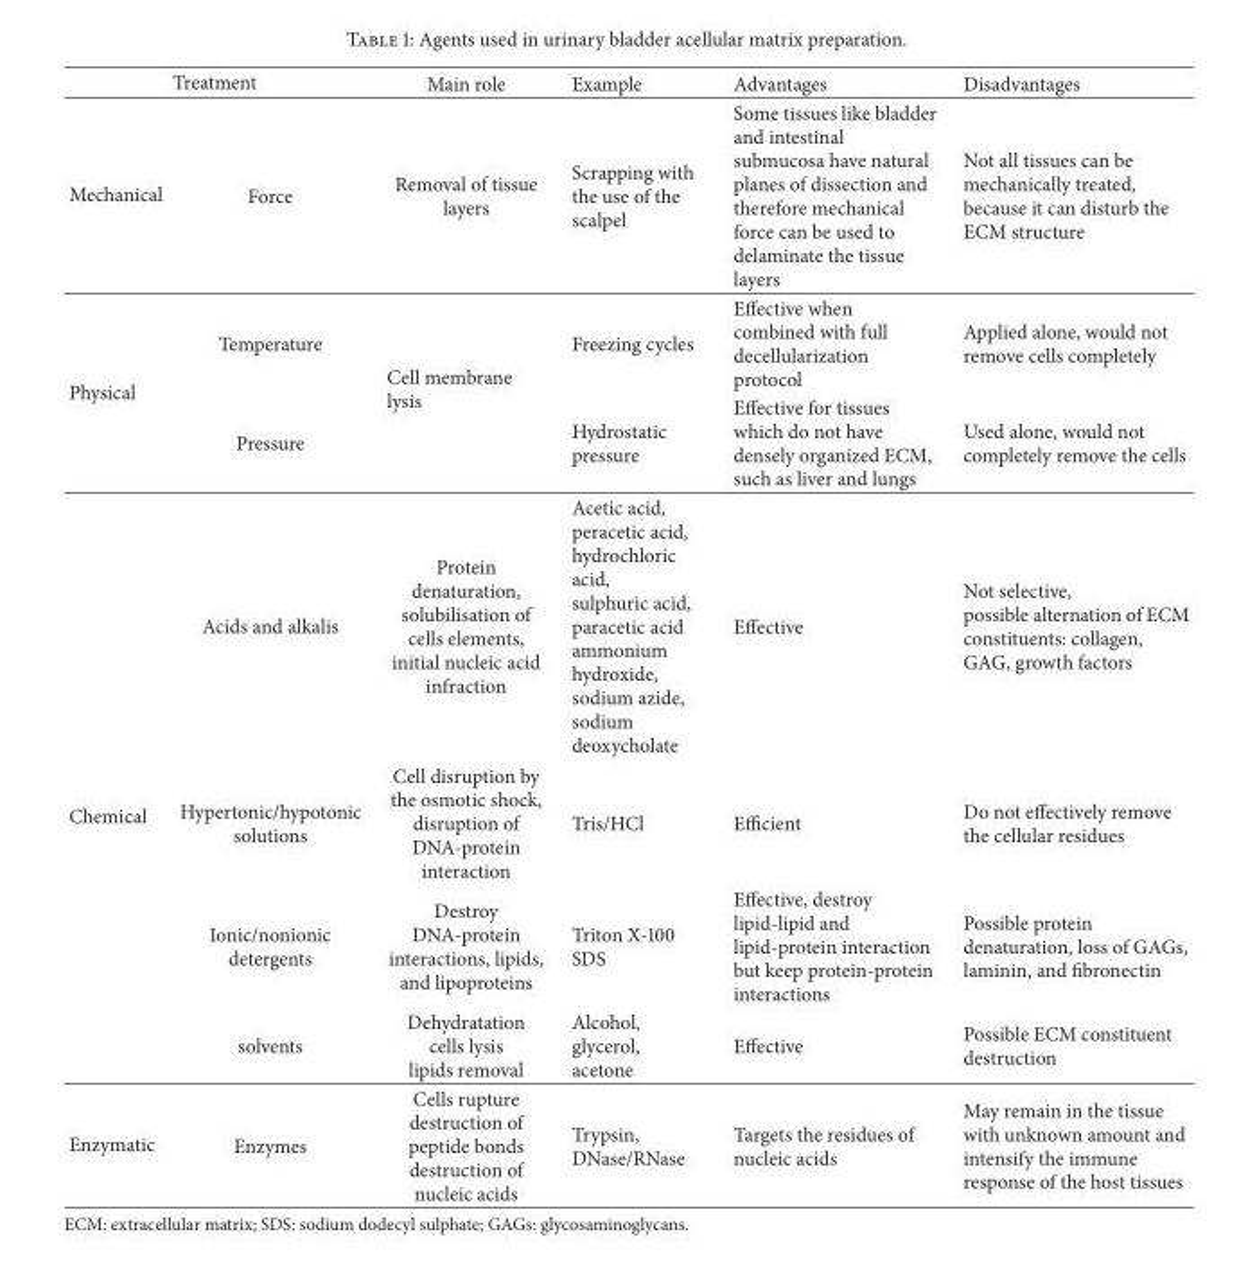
<table><thead><tr><td colspan="2">Treatment</td><td rowspan="2">Main role Removal of tissue layers</td><td rowspan="2">Example Scrapping with the use of the scalpel</td><td rowspan="2">Advantages Some tissues like bladder and intestinal submucosa have natural planes of dissection and therefore mechanical force can be used to delaminate the tissue layers</td><td rowspan="2">Disadvantages Not all tissues can be mechanically treated, because it can disturb the ECM structure</td></tr><tr><td>Mechanical</td><td>Force</td></tr></thead><tbody><tr><td rowspan="2">Physical</td><td>Temperature</td><td rowspan="2">Cell membrane lysis</td><td>Freezing cycles</td><td>Effective when combined with full decellularization protocol</td><td>Applied alone, would not remove cells completely</td></tr><tr><td>Pressure</td><td>Hydrostatic pressure</td><td>Effective for tissues which do not have densely organized ECM, such as liver and lungs</td><td>Used alone, would not completely remove the cells</td></tr><tr><td rowspan="4">Chemical</td><td>Acids and alkalis</td><td>Protein denaturation, solubilisation of cells elements, initial nucleic acid infraction</td><td>Acetic acid, peracetic acid, hydrochloric acid, sulphuric acid, paracetic acid ammonium hydroxide, sodium azide, sodium deoxycholate</td><td>Effective</td><td>Not selective, possible alternation of ECM constituents: collagen, GAG, growth factors</td></tr><tr><td>Hypertonic/hypotonic solutions</td><td>Cell disruption by the osmotic shock, disruption of DNA-protein interaction</td><td>Tris/HCl</td><td>Efficient</td><td>Do not effectively remove the cellular residues</td></tr><tr><td>Ionic/nonionic detergents</td><td>Destroy DNA-protein interactions, lipids, and lipoproteins</td><td>Triton X-100 SDS</td><td>Effective, destroy lipid-lipid and lipid-protein interaction but keep protein-protein interactions</td><td>Possible protein denaturation, loss of GAGs, laminin, and fibronectin</td></tr><tr><td>solvents</td><td>Dehydratation cells lysis lipids removal</td><td>Alcohol, glycerol, acetone</td><td>Effective</td><td>Possible ECM constituent destruction</td></tr><tr><td>Enzymatic</td><td>Enzymes</td><td>Cells rupture destruction of peptide bonds destruction of nucleic acids</td><td>Trypsin, DNase/RNase</td><td>Targets the residues of nucleic acids</td><td>May remain in the tissue with unknown amount and intensify the immune response of the host tissues</td></tr></tbody></table>